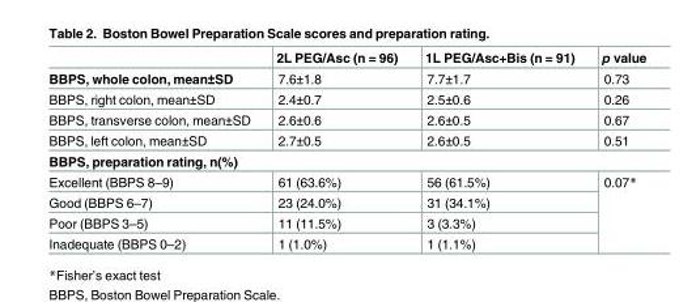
<table><thead><tr><td></td><td>2L PEG/Asc (n = 96)</td><td>1L PEG/Asc+Bis (n = 91)</td><td>p value</td></tr></thead><tbody><tr><td>BBPS, whole colon, mean±SD</td><td>7.6±1.8</td><td>7.7±1.7</td><td>0.73</td></tr><tr><td>BBPS, right colon, mean±SD</td><td>2.4±0.7</td><td>2.5±0.6</td><td>0.26</td></tr><tr><td>BBPS, transverse colon, mean±SD</td><td>2.6±0.6</td><td>2.6±0.5</td><td>0.67</td></tr><tr><td>BBPS, left colon, mean±SD</td><td>2.7±0.5</td><td>2.6±0.5</td><td>0.51</td></tr><tr><td colspan="4">BBPS, preparation rating, n(%)</td></tr><tr><td>Excellent (BBPS 8–9)</td><td>61 (63.6%)</td><td>56 (61.5%)</td><td rowspan="4">0.07*</td></tr><tr><td>Good (BBPS 6–7)</td><td>23 (24.0%)</td><td>31 (34.1%)</td></tr><tr><td>Poor (BBPS 3–5)</td><td>11 (11.5%)</td><td>3 (3.3%)</td></tr><tr><td>Inadequate (BBPS 0–2)</td><td>1 (1.0%)</td><td>1 (1.1%)</td></tr></tbody></table>